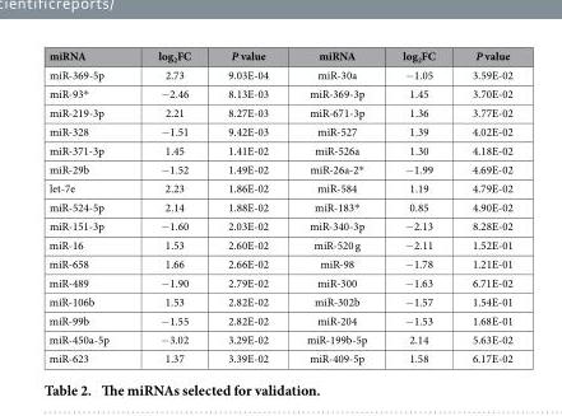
<table><thead><tr><td>miRNA</td><td>log<sub>2</sub>FC</td><td>P value</td><td>miRNA</td><td>log<sub>2</sub>FC</td><td>P value</td></tr></thead><tbody><tr><td>miR-369-5p</td><td>2.73</td><td>9.03E-04</td><td>miR-30a</td><td>− 1.05</td><td>3.59E-02</td></tr><tr><td>miR-93*</td><td>− 2.46</td><td>8.13E-03</td><td>miR-369-3p</td><td>1.45</td><td>3.70E-02</td></tr><tr><td>miR-219-3p</td><td>2.21</td><td>8.27E-03</td><td>miR-671-3p</td><td>1.36</td><td>3.77E-02</td></tr><tr><td>miR-328</td><td>− 1.51</td><td>9.42E-03</td><td>miR-527</td><td>1.39</td><td>4.02E-02</td></tr><tr><td>miR-371-3p</td><td>1.45</td><td>1.41E-02</td><td>miR-526a</td><td>1.30</td><td>4.18E-02</td></tr><tr><td>miR-29b</td><td>− 1.52</td><td>1.49E-02</td><td>miR-26a-2*</td><td>− 1.99</td><td>4.69E-02</td></tr><tr><td>let-7e</td><td>2.23</td><td>1.86E-02</td><td>miR-584</td><td>1.19</td><td>4.79E-02</td></tr><tr><td>miR-524-5p</td><td>2.14</td><td>1.88E-02</td><td>miR-183*</td><td>0.85</td><td>4.90E-02</td></tr><tr><td>miR-151-3p</td><td>− 1.60</td><td>2.03E-02</td><td>miR-340-3p</td><td>− 2.13</td><td>8.28E-02</td></tr><tr><td>miR-16</td><td>1.53</td><td>2.60E-02</td><td>miR-520 g</td><td>− 2.11</td><td>1.52E-01</td></tr><tr><td>miR-658</td><td>1.66</td><td>2.66E-02</td><td>miR-98</td><td>− 1.78</td><td>1.21E-01</td></tr><tr><td>miR-489</td><td>− 1.90</td><td>2.79E-02</td><td>miR-300</td><td>− 1.63</td><td>6.71E-02</td></tr><tr><td>miR-106b</td><td>1.53</td><td>2.82E-02</td><td>miR-302b</td><td>− 1.57</td><td>1.54E-01</td></tr><tr><td>miR-99b</td><td>− 1.55</td><td>2.82E-02</td><td>miR-204</td><td>− 1.53</td><td>1.68E-01</td></tr><tr><td>miR-450a-5p</td><td>− 3.02</td><td>3.29E-02</td><td>miR-199b-5p</td><td>2.14</td><td>5.63E-02</td></tr><tr><td>miR-623</td><td>1.37</td><td>3.39E-02</td><td>miR-409-5p</td><td>1.58</td><td>6.17E-02</td></tr></tbody></table>